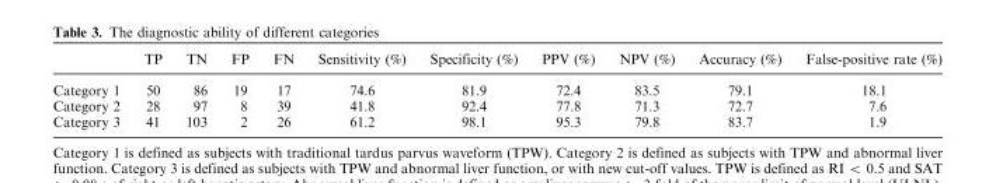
<table><thead><tr><td></td><td>TP</td><td>TN</td><td>FP</td><td>FN</td><td>Sensitivity (%)</td><td>Specificity (%)</td><td>PPV (%)</td><td>NPV (%)</td><td>Accuracy (%)</td><td>False-positive rate (%)</td></tr></thead><tbody><tr><td>Category 1</td><td>50</td><td>86</td><td>19</td><td>17</td><td>74.6</td><td>81.9</td><td>72.4</td><td>83.5</td><td>79.1</td><td>18.1</td></tr><tr><td>Category 2</td><td>28</td><td>97</td><td>8</td><td>39</td><td>41.8</td><td>92.4</td><td>77.8</td><td>71.3</td><td>72.7</td><td>7.6</td></tr><tr><td>Category 3</td><td>41</td><td>103</td><td>2</td><td>26</td><td>61.2</td><td>98.1</td><td>95.3</td><td>79.8</td><td>83.7</td><td>1.9</td></tr></tbody></table>